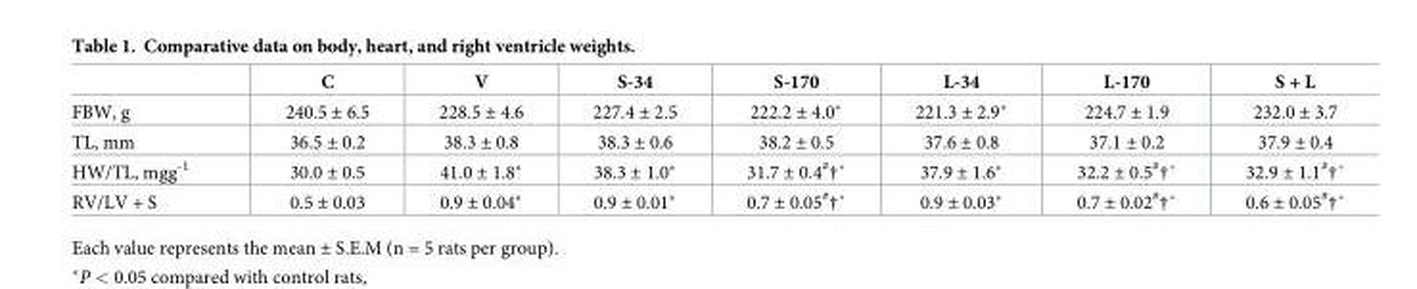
<table><thead><tr><td></td><td>C</td><td>V</td><td>S-34</td><td>S-170</td><td>L-34</td><td>L-170</td><td>S + L</td></tr></thead><tbody><tr><td>FBW, g</td><td>240.5 ± 6.5</td><td>228.5 ± 4.6</td><td>227.4 ± 2.5</td><td>222.2 ± 4.0*</td><td>221.3 ± 2.9*</td><td>224.7 ± 1.9</td><td>232.0 ± 3.7</td></tr><tr><td>TL, mm</td><td>36.5 ± 0.2</td><td>38.3 ± 0.8</td><td>38.3 ± 0.6</td><td>38.2 ± 0.5</td><td>37.6 ± 0.8</td><td>37.1 ± 0.2</td><td>37.9 ± 0.4</td></tr><tr><td>HW/TL, mgg<sup>-1</sup></td><td>30.0 ± 0.5</td><td>41.0 ± 1.8*</td><td>38.3 ± 1.0*</td><td>31.7 ± 0.4#†˚</td><td>37.9 ± 1.6*</td><td>32.2 ± 0.5#†˚</td><td>32.9 ± 1.1#†˚</td></tr><tr><td>RV/LV + S</td><td>0.5 ± 0.03</td><td>0.9 ± 0.04*</td><td>0.9 ± 0.01*</td><td>0.7 ± 0.05#†˚</td><td>0.9 ± 0.03*</td><td>0.7 ± 0.02#†˚</td><td>0.6 ± 0.05#†˚</td></tr></tbody></table>